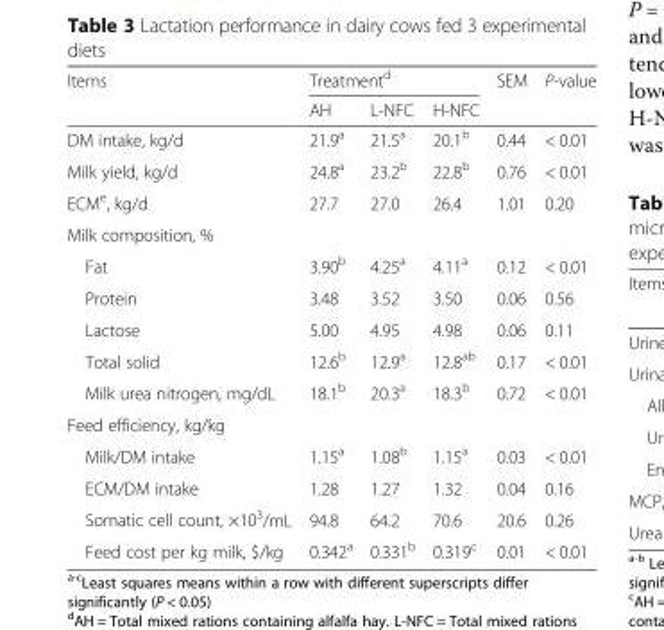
<table><thead><tr><td rowspan="2">Items</td><td colspan="3">Treatment<sup>d</sup></td><td rowspan="2">SEM</td><td rowspan="2">P-value</td></tr><tr><td>AH</td><td>L-NFC</td><td>H-NFC</td></tr></thead><tbody><tr><td>DM intake, kg/d</td><td>21.9<sup>a</sup></td><td>21.5<sup>a</sup></td><td>20.1<sup>b</sup></td><td>0.44</td><td>&lt; 0.01</td></tr><tr><td>Milk yield, kg/d</td><td>24.8<sup>a</sup></td><td>23.2<sup>b</sup></td><td>22.8<sup>b</sup></td><td>0.76</td><td>&lt; 0.01</td></tr><tr><td>ECM<sup>e</sup>, kg/d</td><td>27.7</td><td>27.0</td><td>26.4</td><td>1.01</td><td>0.20</td></tr><tr><td colspan="6">Milk composition, %</td></tr><tr><td>Fat</td><td>3.90<sup>b</sup></td><td>4.25<sup>a</sup></td><td>4.11<sup>a</sup></td><td>0.12</td><td>&lt; 0.01</td></tr><tr><td>Protein</td><td>3.48</td><td>3.52</td><td>3.50</td><td>0.06</td><td>0.56</td></tr><tr><td>Lactose</td><td>5.00</td><td>4.95</td><td>4.98</td><td>0.06</td><td>0.11</td></tr><tr><td>Total solid</td><td>12.6<sup>b</sup></td><td>12.9<sup>a</sup></td><td>12.8<sup>ab</sup></td><td>0.17</td><td>&lt; 0.01</td></tr><tr><td>Milk urea nitrogen, mg/dL</td><td>18.1<sup>b</sup></td><td>20.3<sup>a</sup></td><td>18.3<sup>b</sup></td><td>0.72</td><td>&lt; 0.01</td></tr><tr><td colspan="6">Feed efficiency, kg/kg</td></tr><tr><td>Milk/DM intake</td><td>1.15<sup>a</sup></td><td>1.08<sup>b</sup></td><td>1.15<sup>a</sup></td><td>0.03</td><td>&lt; 0.01</td></tr><tr><td>ECM/DM intake</td><td>1.28</td><td>1.27</td><td>1.32</td><td>0.04</td><td>0.16</td></tr><tr><td>Somatic cell count, ×10<sup>3</sup>/mL</td><td>94.8</td><td>64.2</td><td>70.6</td><td>20.6</td><td>0.26</td></tr><tr><td>Feed cost per kg milk, $/kg</td><td>0.342<sup>a</sup></td><td>0.331<sup>b</sup></td><td>0.319<sup>c</sup></td><td>0.01</td><td>&lt; 0.01</td></tr></tbody></table>